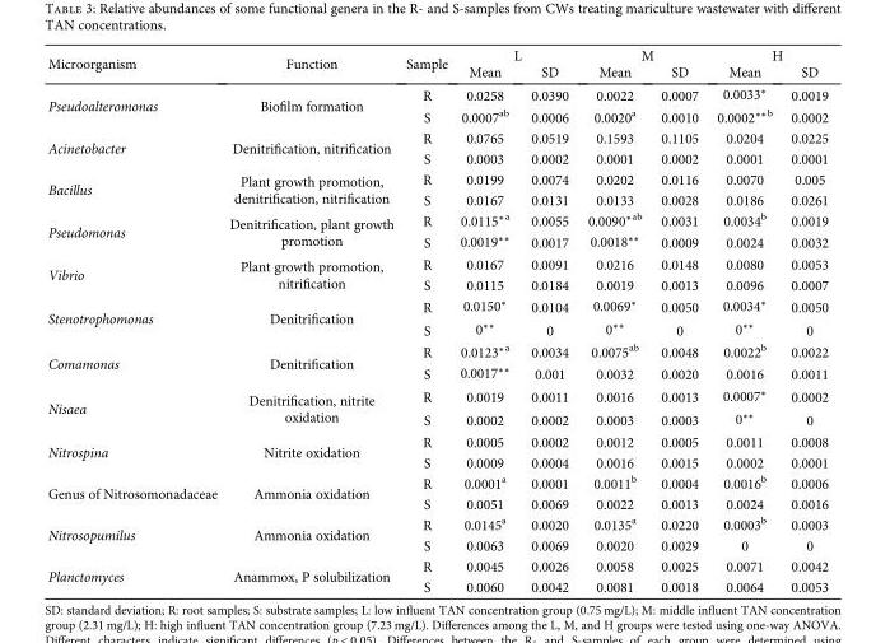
<table><thead><tr><td rowspan="2">Microorganism</td><td rowspan="2">Function</td><td rowspan="2">Sample</td><td colspan="2">L</td><td colspan="2">M</td><td colspan="2">H</td></tr><tr><td>Mean</td><td>SD</td><td>Mean</td><td>SD</td><td>Mean</td><td>SD</td></tr></thead><tbody><tr><td rowspan="2">Pseudoalteromonas</td><td rowspan="2">Biofilm formation</td><td>R</td><td>0.0258</td><td>0.0390</td><td>0.0022</td><td>0.0007</td><td>0.0033∗</td><td>0.0019</td></tr><tr><td>S</td><td>0.0007<sup>ab</sup></td><td>0.0006</td><td>0.0020<sup>a</sup></td><td>0.0010</td><td>0.0002<sup>∗∗b</sup></td><td>0.0002</td></tr><tr><td rowspan="2">Acinetobacter</td><td rowspan="2">Denitrification, nitrification</td><td>R</td><td>0.0765</td><td>0.0519</td><td>0.1593</td><td>0.1105</td><td>0.0204</td><td>0.0225</td></tr><tr><td>S</td><td>0.0003</td><td>0.0002</td><td>0.0001</td><td>0.0002</td><td>0.0001</td><td>0.0001</td></tr><tr><td rowspan="2">Bacillus</td><td rowspan="2">Plant growth promotion, denitrification, nitrification</td><td>R</td><td>0.0199</td><td>0.0074</td><td>0.0202</td><td>0.0116</td><td>0.0070</td><td>0.005</td></tr><tr><td>S</td><td>0.0167</td><td>0.0131</td><td>0.0133</td><td>0.0028</td><td>0.0186</td><td>0.0261</td></tr><tr><td rowspan="2">Pseudomonas</td><td rowspan="2">Denitrification, plant growth promotion</td><td>R</td><td>0.0115<sup>∗a</sup></td><td>0.0055</td><td>0.0090<sup>∗ab</sup></td><td>0.0031</td><td>0.0034<sup>b</sup></td><td>0.0019</td></tr><tr><td>S</td><td>0.0019∗∗</td><td>0.0017</td><td>0.0018∗∗</td><td>0.0009</td><td>0.0024</td><td>0.0032</td></tr><tr><td rowspan="2">Vibrio</td><td rowspan="2">Plant growth promotion, nitrification</td><td>R</td><td>0.0167</td><td>0.0091</td><td>0.0216</td><td>0.0148</td><td>0.0080</td><td>0.0053</td></tr><tr><td>S</td><td>0.0115</td><td>0.0184</td><td>0.0019</td><td>0.0013</td><td>0.0096</td><td>0.0007</td></tr><tr><td rowspan="2">Stenotrophomonas</td><td rowspan="2">Denitrification</td><td>R</td><td>0.0150∗</td><td>0.0104</td><td>0.0069∗</td><td>0.0050</td><td>0.0034∗</td><td>0.0050</td></tr><tr><td>S</td><td>0∗∗</td><td>0</td><td>0∗∗</td><td>0</td><td>0∗∗</td><td>0</td></tr><tr><td rowspan="2">Comamonas</td><td rowspan="2">Denitrification</td><td>R</td><td>0.0123<sup>∗a</sup></td><td>0.0034</td><td>0.0075<sup>ab</sup></td><td>0.0048</td><td>0.0022<sup>b</sup></td><td>0.0022</td></tr><tr><td>S</td><td>0.0017∗∗</td><td>0.001</td><td>0.0032</td><td>0.0020</td><td>0.0016</td><td>0.0011</td></tr><tr><td rowspan="2">Nisaea</td><td rowspan="2">Denitrification, nitrite oxidation</td><td>R</td><td>0.0019</td><td>0.0011</td><td>0.0016</td><td>0.0013</td><td>0.0007∗</td><td>0.0002</td></tr><tr><td>S</td><td>0.0002</td><td>0.0002</td><td>0.0003</td><td>0.0003</td><td>0∗∗</td><td>0</td></tr><tr><td rowspan="2">Nitrospina</td><td rowspan="2">Nitrite oxidation</td><td>R</td><td>0.0005</td><td>0.0002</td><td>0.0012</td><td>0.0005</td><td>0.0011</td><td>0.0008</td></tr><tr><td>S</td><td>0.0009</td><td>0.0004</td><td>0.0016</td><td>0.0015</td><td>0.0002</td><td>0.0001</td></tr><tr><td rowspan="2">Genus of Nitrosomonadaceae</td><td rowspan="2">Ammonia oxidation</td><td>R</td><td>0.0001<sup>a</sup></td><td>0.0001</td><td>0.0011<sup>b</sup></td><td>0.0004</td><td>0.0016<sup>b</sup></td><td>0.0006</td></tr><tr><td>S</td><td>0.0051</td><td>0.0069</td><td>0.0022</td><td>0.0013</td><td>0.0024</td><td>0.0016</td></tr><tr><td rowspan="2">Nitrosopumilus</td><td rowspan="2">Ammonia oxidation</td><td>R</td><td>0.0145<sup>a</sup></td><td>0.0020</td><td>0.0135<sup>a</sup></td><td>0.0220</td><td>0.0003<sup>b</sup></td><td>0.0003</td></tr><tr><td>S</td><td>0.0063</td><td>0.0069</td><td>0.0020</td><td>0.0029</td><td>0</td><td>0</td></tr><tr><td rowspan="2">Planctomyces</td><td rowspan="2">Anammox, P solubilization</td><td>R</td><td>0.0045</td><td>0.0026</td><td>0.0058</td><td>0.0025</td><td>0.0071</td><td>0.0042</td></tr><tr><td>S</td><td>0.0060</td><td>0.0042</td><td>0.0081</td><td>0.0018</td><td>0.0064</td><td>0.0053</td></tr></tbody></table>